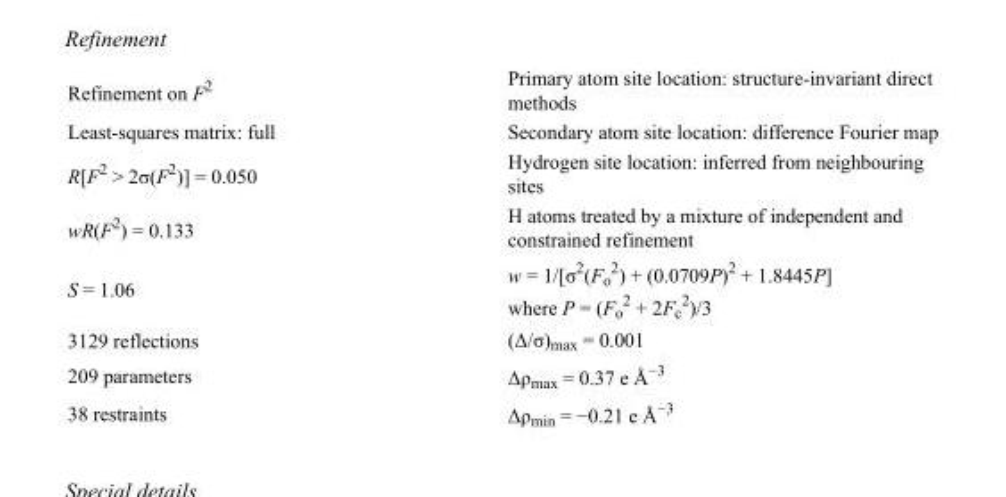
<table><tbody><tr><td>Refinement on F<sup>2</sup></td><td>Primary atom site location: structure-invariant direct methods</td></tr><tr><td>Least-squares matrix: full</td><td>Secondary atom site location: difference Fourier map</td></tr><tr><td>R[F<sup>2</sup> &gt; 2σ(F<sup>2</sup>)] = 0.050</td><td>Hydrogen site location: inferred from neighbouring sites</td></tr><tr><td>wR(F<sup>2</sup>) = 0.133</td><td>H atoms treated by a mixture of independent and constrained refinement</td></tr><tr><td>S = 1.06</td><td>w = 1/[σ<sup>2</sup>(F<sub>o</sub> <sup>2</sup>) + (0.0709P)<sup>2</sup> + 1.8445P] where P = (F<sub>o</sub> <sup>2</sup> + 2F<sub>c</sub> <sup>2</sup>)/3</td></tr><tr><td>3129 reflections</td><td>(Δ/σ)<sub>max</sub> = 0.001</td></tr><tr><td>209 parameters</td><td>Δρ<sub>max</sub> = 0.37 e Å<sup>−3</sup></td></tr><tr><td>38 restraints</td><td>Δρ<sub>min</sub> = −0.21 e Å<sup>−3</sup></td></tr></tbody></table>